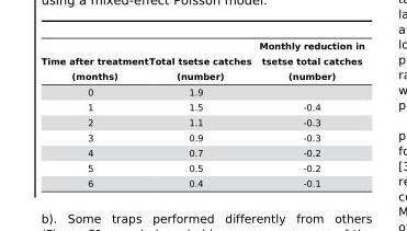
<table><thead><tr><td>Time after treatment (months)</td><td>Total tsetse catches (number)</td><td>Monthly reduction in tsetse total catches (number)</td></tr></thead><tbody><tr><td>0</td><td>1.9</td><td></td></tr><tr><td>1</td><td>1.5</td><td>-0.4</td></tr><tr><td>2</td><td>1.1</td><td>-0.3</td></tr><tr><td>3</td><td>0.9</td><td>-0.3</td></tr><tr><td>4</td><td>0.7</td><td>-0.2</td></tr><tr><td>5</td><td>0.5</td><td>-0.2</td></tr><tr><td>6</td><td>0.4</td><td>-0.1</td></tr></tbody></table>